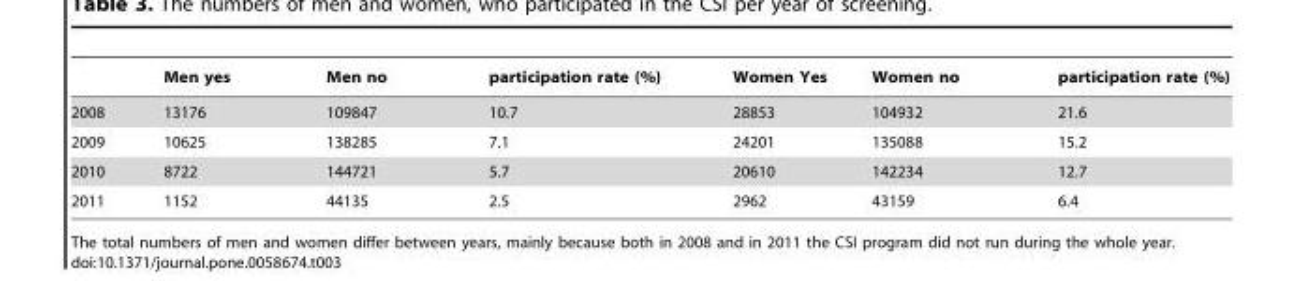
<table><thead><tr><td></td><td>Men yes</td><td>Men no</td><td>participation rate (%)</td><td>Women Yes</td><td>Women no</td><td>participation rate (%)</td></tr></thead><tbody><tr><td>2008</td><td>13176</td><td>109847</td><td>10.7</td><td>28853</td><td>104932</td><td>21.6</td></tr><tr><td>2009</td><td>10625</td><td>138285</td><td>7.1</td><td>24201</td><td>135088</td><td>15.2</td></tr><tr><td>2010</td><td>8722</td><td>144721</td><td>5.7</td><td>20610</td><td>142234</td><td>12.7</td></tr><tr><td>2011</td><td>1152</td><td>44135</td><td>2.5</td><td>2962</td><td>43159</td><td>6.4</td></tr></tbody></table>